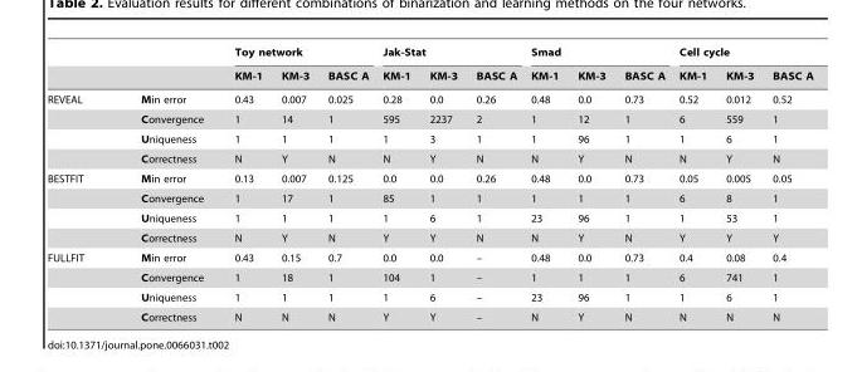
<table><thead><tr><td rowspan="2"></td><td rowspan="2"></td><td colspan="3">Toy network</td><td colspan="3">Jak-Stat</td><td colspan="3">Smad</td><td colspan="3">Cell cycle</td></tr><tr><td>KM-1</td><td>KM-3</td><td>BASC A</td><td>KM-1</td><td>KM-3</td><td>BASC A</td><td>KM-1</td><td>KM-3</td><td>BASC A</td><td>KM-1</td><td>KM-3</td><td>BASC A</td></tr></thead><tbody><tr><td rowspan="4">REVEAL</td><td>Min error</td><td>0.43</td><td>0.007</td><td>0.025</td><td>0.28</td><td>0.0</td><td>0.26</td><td>0.48</td><td>0.0</td><td>0.73</td><td>0.52</td><td>0.012</td><td>0.52</td></tr><tr><td>Convergence</td><td>1</td><td>14</td><td>1</td><td>595</td><td>2237</td><td>2</td><td>1</td><td>12</td><td>1</td><td>6</td><td>559</td><td>1</td></tr><tr><td>Uniqueness</td><td>1</td><td>1</td><td>1</td><td>1</td><td>3</td><td>1</td><td>1</td><td>96</td><td>1</td><td>1</td><td>6</td><td>1</td></tr><tr><td>Correctness</td><td>N</td><td>Y</td><td>N</td><td>N</td><td>Y</td><td>N</td><td>N</td><td>Y</td><td>N</td><td>N</td><td>Y</td><td>N</td></tr><tr><td rowspan="4">BESTFIT</td><td>Min error</td><td>0.13</td><td>0.007</td><td>0.125</td><td>0.0</td><td>0.0</td><td>0.26</td><td>0.48</td><td>0.0</td><td>0.73</td><td>0.05</td><td>0.005</td><td>0.05</td></tr><tr><td>Convergence</td><td>1</td><td>17</td><td>1</td><td>85</td><td>1</td><td>1</td><td>1</td><td>1</td><td>1</td><td>6</td><td>8</td><td>1</td></tr><tr><td>Uniqueness</td><td>1</td><td>1</td><td>1</td><td>1</td><td>6</td><td>1</td><td>23</td><td>96</td><td>1</td><td>1</td><td>53</td><td>1</td></tr><tr><td>Correctness</td><td>N</td><td>Y</td><td>N</td><td>Y</td><td>Y</td><td>N</td><td>N</td><td>Y</td><td>N</td><td>Y</td><td>Y</td><td>Y</td></tr><tr><td rowspan="4">FULLFIT</td><td>Min error</td><td>0.43</td><td>0.15</td><td>0.7</td><td>0.0</td><td>0.0</td><td>–</td><td>0.48</td><td>0.0</td><td>0.73</td><td>0.4</td><td>0.08</td><td>0.4</td></tr><tr><td>Convergence</td><td>1</td><td>18</td><td>1</td><td>104</td><td>1</td><td>–</td><td>1</td><td>1</td><td>1</td><td>6</td><td>741</td><td>1</td></tr><tr><td>Uniqueness</td><td>1</td><td>1</td><td>1</td><td>1</td><td>6</td><td>–</td><td>23</td><td>96</td><td>1</td><td>1</td><td>6</td><td>1</td></tr><tr><td>Correctness</td><td>N</td><td>N</td><td>N</td><td>Y</td><td>Y</td><td>–</td><td>N</td><td>Y</td><td>N</td><td>N</td><td>N</td><td>N</td></tr></tbody></table>